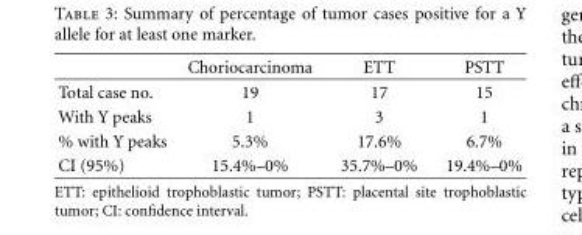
<table><thead><tr><td></td><td>Choriocarcinoma</td><td>ETT</td><td>PSTT</td></tr></thead><tbody><tr><td>Total case no.</td><td>19</td><td>17</td><td>15</td></tr><tr><td>With Y peaks</td><td>1</td><td>3</td><td>1</td></tr><tr><td>% with Y peaks</td><td>5.3%</td><td>17.6%</td><td>6.7%</td></tr><tr><td>CI (95%)</td><td>15.4%–0%</td><td>35.7%–0%</td><td>19.4%–0%</td></tr></tbody></table>